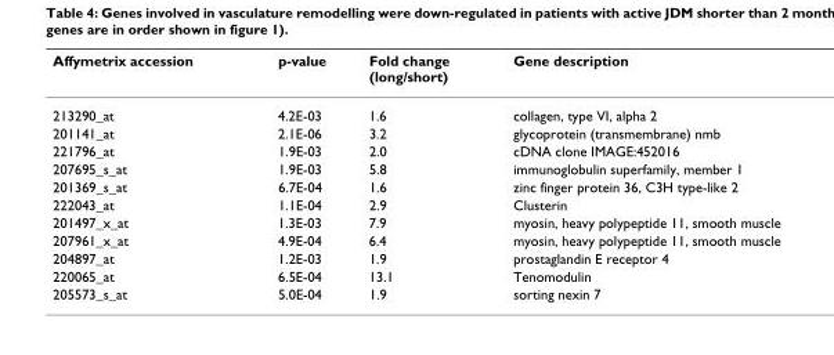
<table><thead><tr><td>Affymetrix accession</td><td>p-value</td><td>Fold change (long/short)</td><td>Gene description</td></tr></thead><tbody><tr><td>213290_at</td><td>4.2E-03</td><td>1.6</td><td>collagen, type VI, alpha 2</td></tr><tr><td>201141_at</td><td>2.1E-06</td><td>3.2</td><td>glycoprotein (transmembrane) nmb</td></tr><tr><td>221796_at</td><td>1.9E-03</td><td>2.0</td><td>cDNA clone IMAGE:452016</td></tr><tr><td>207695_s_at</td><td>1.9E-03</td><td>5.8</td><td>immunoglobulin superfamily, member 1</td></tr><tr><td>201369_s_at</td><td>6.7E-04</td><td>1.6</td><td>zinc finger protein 36, C3H type-like 2</td></tr><tr><td>222043_at</td><td>1.1E-04</td><td>2.9</td><td>Clusterin</td></tr><tr><td>201497_x_at</td><td>1.3E-03</td><td>7.9</td><td>myosin, heavy polypeptide 11, smooth muscle</td></tr><tr><td>207961_x_at</td><td>4.9E-04</td><td>6.4</td><td>myosin, heavy polypeptide 11, smooth muscle</td></tr><tr><td>204897_at</td><td>1.2E-03</td><td>1.9</td><td>prostaglandin E receptor 4</td></tr><tr><td>220065_at</td><td>6.5E-04</td><td>13.1</td><td>Tenomodulin</td></tr><tr><td>205573_s_at</td><td>5.0E-04</td><td>1.9</td><td>sorting nexin 7</td></tr></tbody></table>